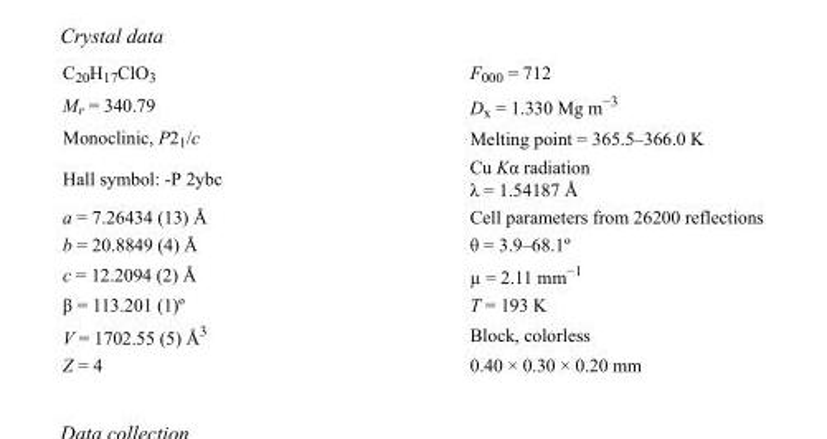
<table><tbody><tr><td>C<sub>20</sub>H<sub>17</sub>ClO<sub>3</sub></td><td>F000 = 712</td></tr><tr><td>M<sub>r</sub> = 340.79</td><td>D<sub>x</sub> = 1.330 Mg m<sup>−3</sup></td></tr><tr><td>Monoclinic, P2<sub>1</sub>/c</td><td>Melting point = 365.5–366.0 K</td></tr><tr><td>Hall symbol: -P 2ybc</td><td>Cu Kα radiation λ = 1.54187 Å</td></tr><tr><td>a = 7.26434 (13) Å</td><td>Cell parameters from 26200 reflections</td></tr><tr><td>b = 20.8849 (4) Å</td><td>θ = 3.9–68.1º</td></tr><tr><td>c = 12.2094 (2) Å</td><td>µ = 2.11 mm<sup>−1</sup></td></tr><tr><td>β = 113.201 (1)º</td><td>T = 193 K</td></tr><tr><td>V = 1702.55 (5) Å<sup>3</sup></td><td>Block, colorless</td></tr><tr><td>Z = 4</td><td>0.40 × 0.30 × 0.20 mm</td></tr></tbody></table>